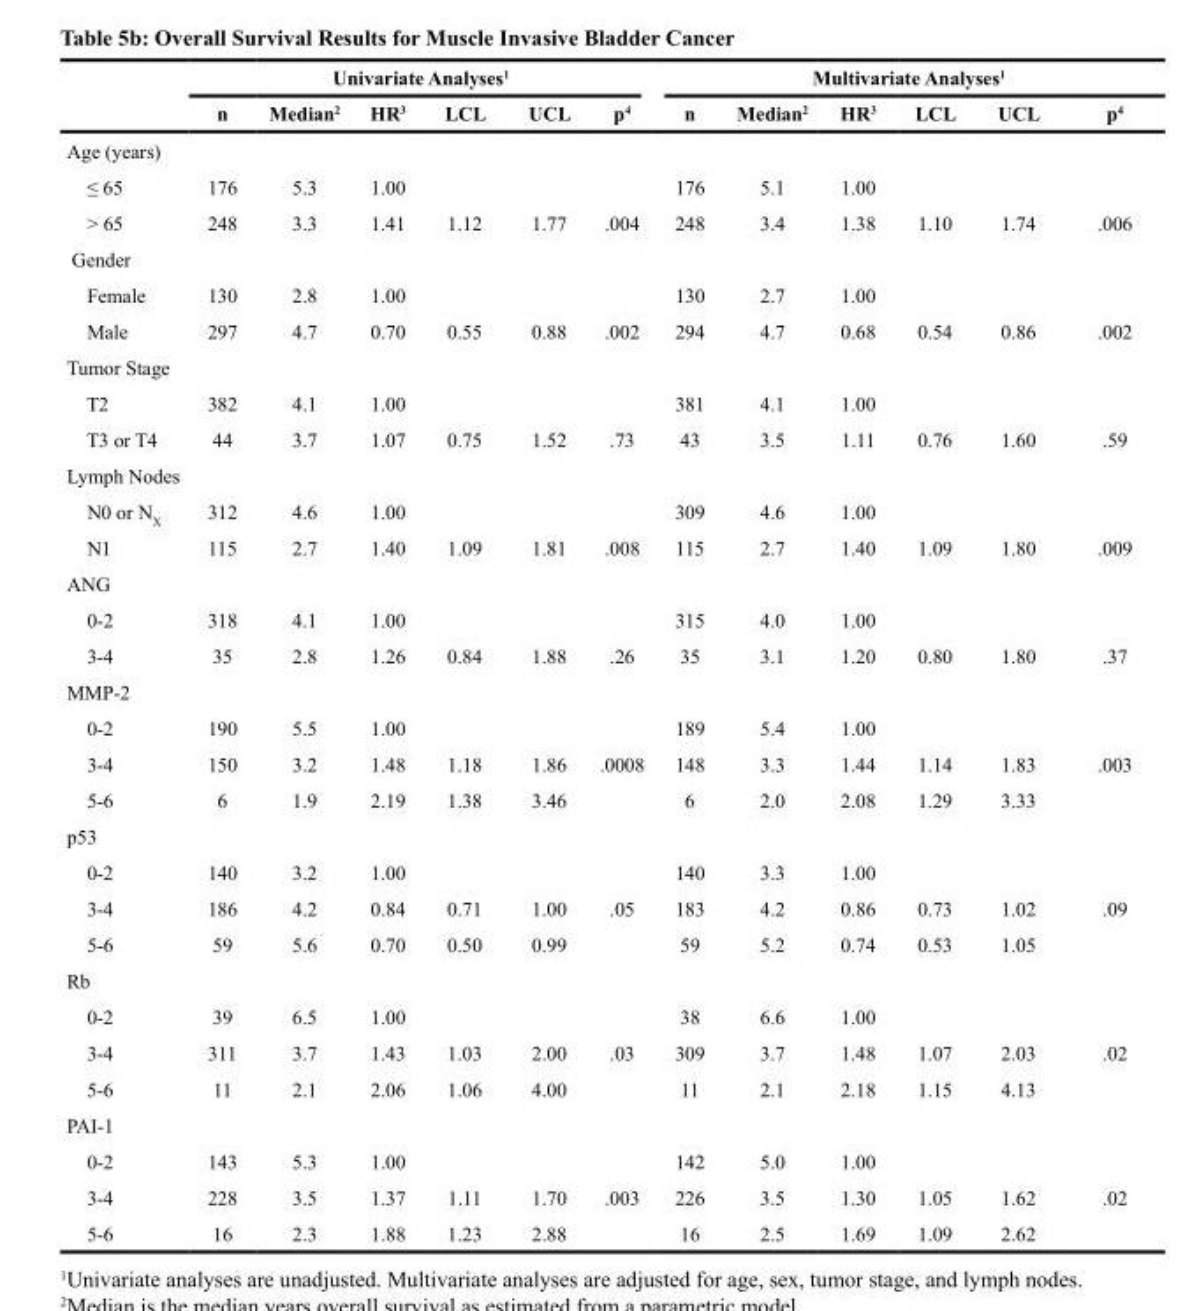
<table><thead><tr><td rowspan="2"></td><td colspan="6">Univariate Analyses<sup>1</sup></td><td colspan="6">Multivariate Analyses<sup>1</sup></td></tr><tr><td>n</td><td>Median<sup>2</sup></td><td>HR<sup>3</sup></td><td>LCL</td><td>UCL</td><td>p<sup>4</sup></td><td>n</td><td>Median<sup>2</sup></td><td>HR<sup>3</sup></td><td>LCL</td><td>UCL</td><td>p<sup>4</sup></td></tr></thead><tbody><tr><td colspan="13">Age (years)</td></tr><tr><td>≤ 65</td><td>176</td><td>5.3</td><td>1.00</td><td></td><td></td><td></td><td>176</td><td>5.1</td><td>1.00</td><td></td><td></td><td></td></tr><tr><td>&gt; 65</td><td>248</td><td>3.3</td><td>1.41</td><td>1.12</td><td>1.77</td><td>.004</td><td>248</td><td>3.4</td><td>1.38</td><td>1.10</td><td>1.74</td><td>.006</td></tr><tr><td colspan="13">Gender</td></tr><tr><td>Female</td><td>130</td><td>2.8</td><td>1.00</td><td></td><td></td><td></td><td>130</td><td>2.7</td><td>1.00</td><td></td><td></td><td></td></tr><tr><td>Male</td><td>297</td><td>4.7</td><td>0.70</td><td>0.55</td><td>0.88</td><td>.002</td><td>294</td><td>4.7</td><td>0.68</td><td>0.54</td><td>0.86</td><td>.002</td></tr><tr><td colspan="13">Tumor Stage</td></tr><tr><td>T2</td><td>382</td><td>4.1</td><td>1.00</td><td></td><td></td><td></td><td>381</td><td>4.1</td><td>1.00</td><td></td><td></td><td></td></tr><tr><td>T3 or T4</td><td>44</td><td>3.7</td><td>1.07</td><td>0.75</td><td>1.52</td><td>.73</td><td>43</td><td>3.5</td><td>1.11</td><td>0.76</td><td>1.60</td><td>.59</td></tr><tr><td colspan="13">Lymph Nodes</td></tr><tr><td>N0 or N<sub>X</sub></td><td>312</td><td>4.6</td><td>1.00</td><td></td><td></td><td></td><td>309</td><td>4.6</td><td>1.00</td><td></td><td></td><td></td></tr><tr><td>N1</td><td>115</td><td>2.7</td><td>1.40</td><td>1.09</td><td>1.81</td><td>.008</td><td>115</td><td>2.7</td><td>1.40</td><td>1.09</td><td>1.80</td><td>.009</td></tr><tr><td colspan="13">ANG</td></tr><tr><td>0-2</td><td>318</td><td>4.1</td><td>1.00</td><td></td><td></td><td></td><td>315</td><td>4.0</td><td>1.00</td><td></td><td></td><td></td></tr><tr><td>3-4</td><td>35</td><td>2.8</td><td>1.26</td><td>0.84</td><td>1.88</td><td>.26</td><td>35</td><td>3.1</td><td>1.20</td><td>0.80</td><td>1.80</td><td>.37</td></tr><tr><td colspan="13">MMP-2</td></tr><tr><td>0-2</td><td>190</td><td>5.5</td><td>1.00</td><td></td><td></td><td></td><td>189</td><td>5.4</td><td>1.00</td><td></td><td></td><td></td></tr><tr><td>3-4</td><td>150</td><td>3.2</td><td>1.48</td><td>1.18</td><td>1.86</td><td>.0008</td><td>148</td><td>3.3</td><td>1.44</td><td>1.14</td><td>1.83</td><td>.003</td></tr><tr><td>5-6</td><td>6</td><td>1.9</td><td>2.19</td><td>1.38</td><td>3.46</td><td></td><td>6</td><td>2.0</td><td>2.08</td><td>1.29</td><td>3.33</td><td></td></tr><tr><td colspan="13">p53</td></tr><tr><td>0-2</td><td>140</td><td>3.2</td><td>1.00</td><td></td><td></td><td></td><td>140</td><td>3.3</td><td>1.00</td><td></td><td></td><td></td></tr><tr><td>3-4</td><td>186</td><td>4.2</td><td>0.84</td><td>0.71</td><td>1.00</td><td>.05</td><td>183</td><td>4.2</td><td>0.86</td><td>0.73</td><td>1.02</td><td>.09</td></tr><tr><td>5-6</td><td>59</td><td>5.6</td><td>0.70</td><td>0.50</td><td>0.99</td><td></td><td>59</td><td>5.2</td><td>0.74</td><td>0.53</td><td>1.05</td><td></td></tr><tr><td colspan="13">Rb</td></tr><tr><td>0-2</td><td>39</td><td>6.5</td><td>1.00</td><td></td><td></td><td></td><td>38</td><td>6.6</td><td>1.00</td><td></td><td></td><td></td></tr><tr><td>3-4</td><td>311</td><td>3.7</td><td>1.43</td><td>1.03</td><td>2.00</td><td>.03</td><td>309</td><td>3.7</td><td>1.48</td><td>1.07</td><td>2.03</td><td>.02</td></tr><tr><td>5-6</td><td>11</td><td>2.1</td><td>2.06</td><td>1.06</td><td>4.00</td><td></td><td>11</td><td>2.1</td><td>2.18</td><td>1.15</td><td>4.13</td><td></td></tr><tr><td colspan="13">PAI-1</td></tr><tr><td>0-2</td><td>143</td><td>5.3</td><td>1.00</td><td></td><td></td><td></td><td>142</td><td>5.0</td><td>1.00</td><td></td><td></td><td></td></tr><tr><td>3-4</td><td>228</td><td>3.5</td><td>1.37</td><td>1.11</td><td>1.70</td><td>.003</td><td>226</td><td>3.5</td><td>1.30</td><td>1.05</td><td>1.62</td><td>.02</td></tr><tr><td>5-6</td><td>16</td><td>2.3</td><td>1.88</td><td>1.23</td><td>2.88</td><td></td><td>16</td><td>2.5</td><td>1.69</td><td>1.09</td><td>2.62</td><td></td></tr></tbody></table>